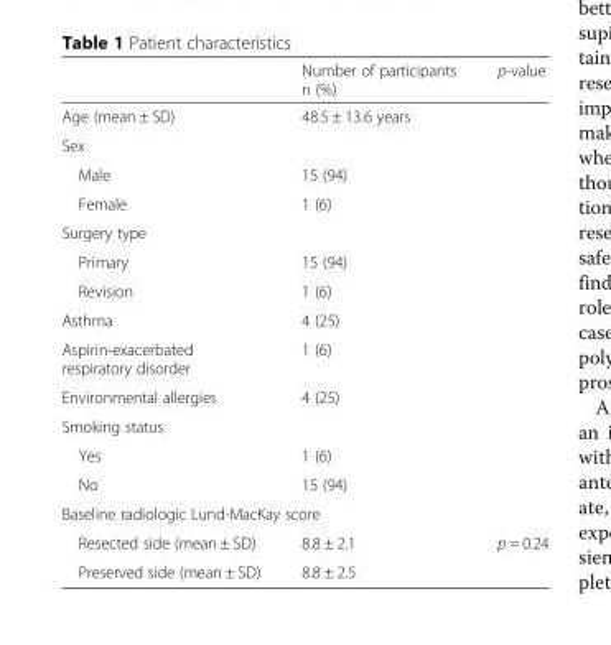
<table><thead><tr><td></td><td>Number of participants n (%)</td><td>p-value</td></tr></thead><tbody><tr><td>Age (mean ± SD)</td><td>48.5 ± 13.6 years</td><td></td></tr><tr><td colspan="3">Sex</td></tr><tr><td>Male</td><td>15 (94)</td><td></td></tr><tr><td>Female</td><td>1 (6)</td><td></td></tr><tr><td colspan="3">Surgery type</td></tr><tr><td>Primary</td><td>15 (94)</td><td></td></tr><tr><td>Revision</td><td>1 (6)</td><td></td></tr><tr><td>Asthma</td><td>4 (25)</td><td></td></tr><tr><td>Aspirin-exacerbated respiratory disorder</td><td>1 (6)</td><td></td></tr><tr><td>Environmental allergies</td><td>4 (25)</td><td></td></tr><tr><td colspan="3">Smoking status</td></tr><tr><td>Yes</td><td>1 (6)</td><td></td></tr><tr><td>No</td><td>15 (94)</td><td></td></tr><tr><td colspan="3">Baseline radiologic Lund-MacKay score</td></tr><tr><td>Resected side (mean ± SD)</td><td>8.8 ± 2.1</td><td>p = 0.24</td></tr><tr><td>Preserved side (mean ± SD)</td><td>8.8 ± 2.5</td><td></td></tr></tbody></table>